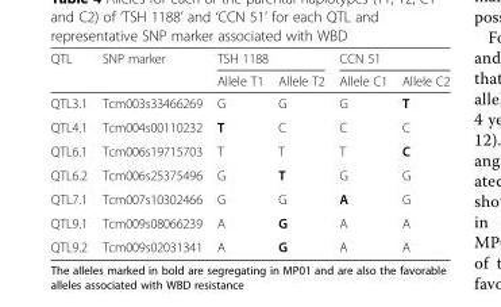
<table><thead><tr><td rowspan="2">QTL</td><td rowspan="2">SNP marker</td><td colspan="2">TSH 1188</td><td colspan="2">CCN 51</td></tr><tr><td>Allele T1</td><td>Allele T2</td><td>Allele C1</td><td>Allele C2</td></tr></thead><tbody><tr><td>QTL3.1</td><td>Tcm003s33466269</td><td>G</td><td>G</td><td>G</td><td>T</td></tr><tr><td>QTL4.1</td><td>Tcm004s00110232</td><td>T</td><td>C</td><td>C</td><td>C</td></tr><tr><td>QTL6.1</td><td>Tcm006s19715703</td><td>T</td><td>T</td><td>T</td><td>C</td></tr><tr><td>QTL6.2</td><td>Tcm006s25375496</td><td>G</td><td>T</td><td>G</td><td>G</td></tr><tr><td>QTL7.1</td><td>Tcm007s10302466</td><td>G</td><td>G</td><td>A</td><td>G</td></tr><tr><td>QTL9.1</td><td>Tcm009s08066239</td><td>A</td><td>G</td><td>A</td><td>A</td></tr><tr><td>QTL9.2</td><td>Tcm009s02031341</td><td>A</td><td>G</td><td>A</td><td>A</td></tr></tbody></table>